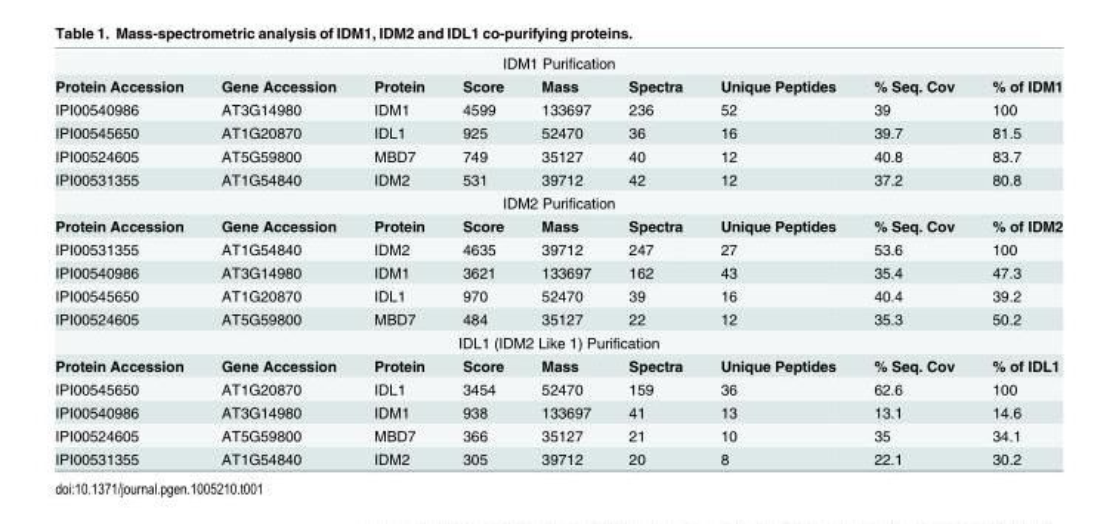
<table><tbody><tr><td colspan="9">IDM1 Purification</td></tr><tr><td>Protein Accession</td><td>Gene Accession</td><td>Protein</td><td>Score</td><td>Mass</td><td>Spectra</td><td>Unique Peptides</td><td>% Seq. Cov</td><td>% of IDM1</td></tr><tr><td>IPI00540986</td><td>AT3G14980</td><td>IDM1</td><td>4599</td><td>133697</td><td>236</td><td>52</td><td>39</td><td>100</td></tr><tr><td>IPI00545650</td><td>AT1G20870</td><td>IDL1</td><td>925</td><td>52470</td><td>36</td><td>16</td><td>39.7</td><td>81.5</td></tr><tr><td>IPI00524605</td><td>AT5G59800</td><td>MBD7</td><td>749</td><td>35127</td><td>40</td><td>12</td><td>40.8</td><td>83.7</td></tr><tr><td>IPI00531355</td><td>AT1G54840</td><td>IDM2</td><td>531</td><td>39712</td><td>42</td><td>12</td><td>37.2</td><td>80.8</td></tr><tr><td colspan="9">IDM2 Purification</td></tr><tr><td>Protein Accession</td><td>Gene Accession</td><td>Protein</td><td>Score</td><td>Mass</td><td>Spectra</td><td>Unique Peptides</td><td>% Seq. Cov</td><td>% of IDM2</td></tr><tr><td>IPI00531355</td><td>AT1G54840</td><td>IDM2</td><td>4635</td><td>39712</td><td>247</td><td>27</td><td>53.6</td><td>100</td></tr><tr><td>IPI00540986</td><td>AT3G14980</td><td>IDM1</td><td>3621</td><td>133697</td><td>162</td><td>43</td><td>35.4</td><td>47.3</td></tr><tr><td>IPI00545650</td><td>AT1G20870</td><td>IDL1</td><td>970</td><td>52470</td><td>39</td><td>16</td><td>40.4</td><td>39.2</td></tr><tr><td>IPI00524605</td><td>AT5G59800</td><td>MBD7</td><td>484</td><td>35127</td><td>22</td><td>12</td><td>35.3</td><td>50.2</td></tr><tr><td colspan="9">IDL1 (IDM2 Like 1) Purification</td></tr><tr><td>Protein Accession</td><td>Gene Accession</td><td>Protein</td><td>Score</td><td>Mass</td><td>Spectra</td><td>Unique Peptides</td><td>% Seq. Cov</td><td>% of IDL1</td></tr><tr><td>IPI00545650</td><td>AT1G20870</td><td>IDL1</td><td>3454</td><td>52470</td><td>159</td><td>36</td><td>62.6</td><td>100</td></tr><tr><td>IPI00540986</td><td>AT3G14980</td><td>IDM1</td><td>938</td><td>133697</td><td>41</td><td>13</td><td>13.1</td><td>14.6</td></tr><tr><td>IPI00524605</td><td>AT5G59800</td><td>MBD7</td><td>366</td><td>35127</td><td>21</td><td>10</td><td>35</td><td>34.1</td></tr><tr><td>IPI00531355</td><td>AT1G54840</td><td>IDM2</td><td>305</td><td>39712</td><td>20</td><td>8</td><td>22.1</td><td>30.2</td></tr></tbody></table>